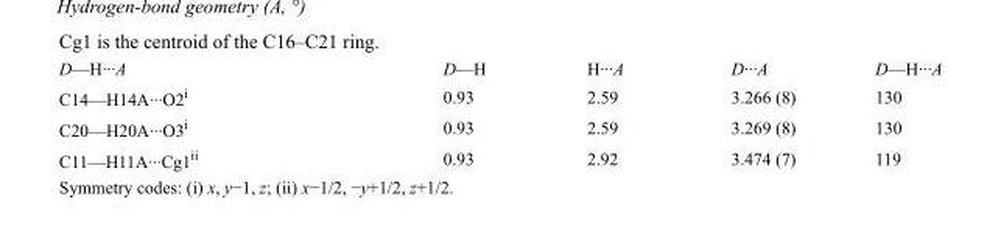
<table><tbody><tr><td>D—H···A</td><td>D—H</td><td>H···A</td><td>D···A</td><td>D—H···A</td></tr><tr><td>C14—H14A···O2<sup>i</sup></td><td>0.93</td><td>2.59</td><td>3.266 (8)</td><td>130</td></tr><tr><td>C20—H20A···O3<sup>i</sup></td><td>0.93</td><td>2.59</td><td>3.269 (8)</td><td>130</td></tr><tr><td>C11—H11A···Cg1<sup>ii</sup></td><td>0.93</td><td>2.92</td><td>3.474 (7)</td><td>119</td></tr></tbody></table>